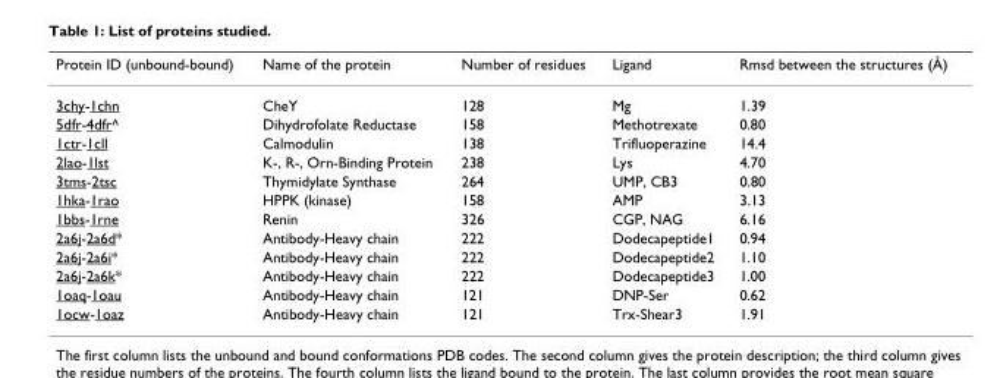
<table><thead><tr><td>Protein ID (unbound-bound)</td><td>Name of the protein</td><td>Number of residues</td><td>Ligand</td><td>Rmsd between the structures (Å)</td></tr></thead><tbody><tr><td>3chy-1chn</td><td>CheY</td><td>128</td><td>Mg</td><td>1.39</td></tr><tr><td>5dfr-4dfr^</td><td>Dihydrofolate Reductase</td><td>158</td><td>Methotrexate</td><td>0.80</td></tr><tr><td>1ctr-1cll</td><td>Calmodulin</td><td>138</td><td>Trifluoperazine</td><td>14.4</td></tr><tr><td>2lao-1lst</td><td>K-, R-, Orn-Binding Protein</td><td>238</td><td>Lys</td><td>4.70</td></tr><tr><td>3tms-2tsc</td><td>Thymidylate Synthase</td><td>264</td><td>UMP, CB3</td><td>0.80</td></tr><tr><td>1hka-1rao</td><td>HPPK (kinase)</td><td>158</td><td>AMP</td><td>3.13</td></tr><tr><td>1bbs-1rne</td><td>Renin</td><td>326</td><td>CGP, NAG</td><td>6.16</td></tr><tr><td>2a6j-2a6d*</td><td>Antibody-Heavy chain</td><td>222</td><td>Dodecapeptide1</td><td>0.94</td></tr><tr><td>2a6j-2a6i*</td><td>Antibody-Heavy chain</td><td>222</td><td>Dodecapeptide2</td><td>1.10</td></tr><tr><td>2a6j-2a6k*</td><td>Antibody-Heavy chain</td><td>222</td><td>Dodecapeptide3</td><td>1.00</td></tr><tr><td>1oaq-1oau</td><td>Antibody-Heavy chain</td><td>121</td><td>DNP-Ser</td><td>0.62</td></tr><tr><td>1ocw-1oaz</td><td>Antibody-Heavy chain</td><td>121</td><td>Trx-Shear3</td><td>1.91</td></tr></tbody></table>